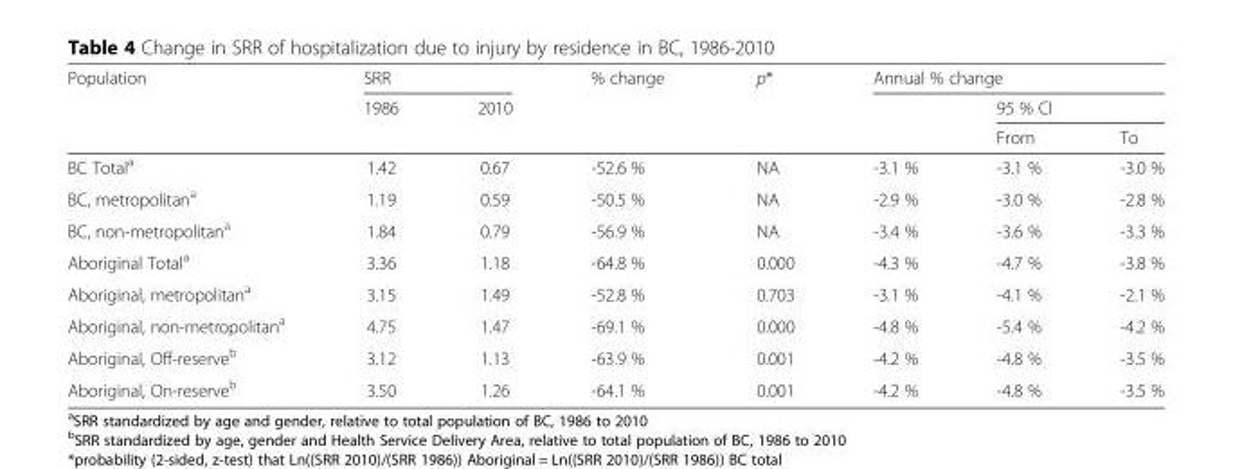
<table><thead><tr><td rowspan="3">Population</td><td colspan="2">SRR</td><td rowspan="3">% change</td><td rowspan="3">p*</td><td colspan="3">Annual % change</td></tr><tr><td rowspan="2">1986</td><td rowspan="2">2010</td><td rowspan="2"></td><td colspan="2">95 % CI</td></tr><tr><td>From</td><td>To</td></tr></thead><tbody><tr><td>BC Total<sup>a</sup></td><td>1.42</td><td>0.67</td><td>-52.6 %</td><td>NA</td><td>-3.1 %</td><td>-3.1 %</td><td>-3.0 %</td></tr><tr><td>BC, metropolitan<sup>a</sup></td><td>1.19</td><td>0.59</td><td>-50.5 %</td><td>NA</td><td>-2.9 %</td><td>-3.0 %</td><td>-2.8 %</td></tr><tr><td>BC, non-metropolitan<sup>a</sup></td><td>1.84</td><td>0.79</td><td>-56.9 %</td><td>NA</td><td>-3.4 %</td><td>-3.6 %</td><td>-3.3 %</td></tr><tr><td>Aboriginal Total<sup>a</sup></td><td>3.36</td><td>1.18</td><td>-64.8 %</td><td>0.000</td><td>-4.3 %</td><td>-4.7 %</td><td>-3.8 %</td></tr><tr><td>Aboriginal, metropolitan<sup>a</sup></td><td>3.15</td><td>1.49</td><td>-52.8 %</td><td>0.703</td><td>-3.1 %</td><td>-4.1 %</td><td>-2.1 %</td></tr><tr><td>Aboriginal, non-metropolitan<sup>a</sup></td><td>4.75</td><td>1.47</td><td>-69.1 %</td><td>0.000</td><td>-4.8 %</td><td>-5.4 %</td><td>-4.2 %</td></tr><tr><td>Aboriginal, Off-reserve<sup>b</sup></td><td>3.12</td><td>1.13</td><td>-63.9 %</td><td>0.001</td><td>-4.2 %</td><td>-4.8 %</td><td>-3.5 %</td></tr><tr><td>Aboriginal, On-reserve<sup>b</sup></td><td>3.50</td><td>1.26</td><td>-64.1 %</td><td>0.001</td><td>-4.2 %</td><td>-4.8 %</td><td>-3.5 %</td></tr></tbody></table>